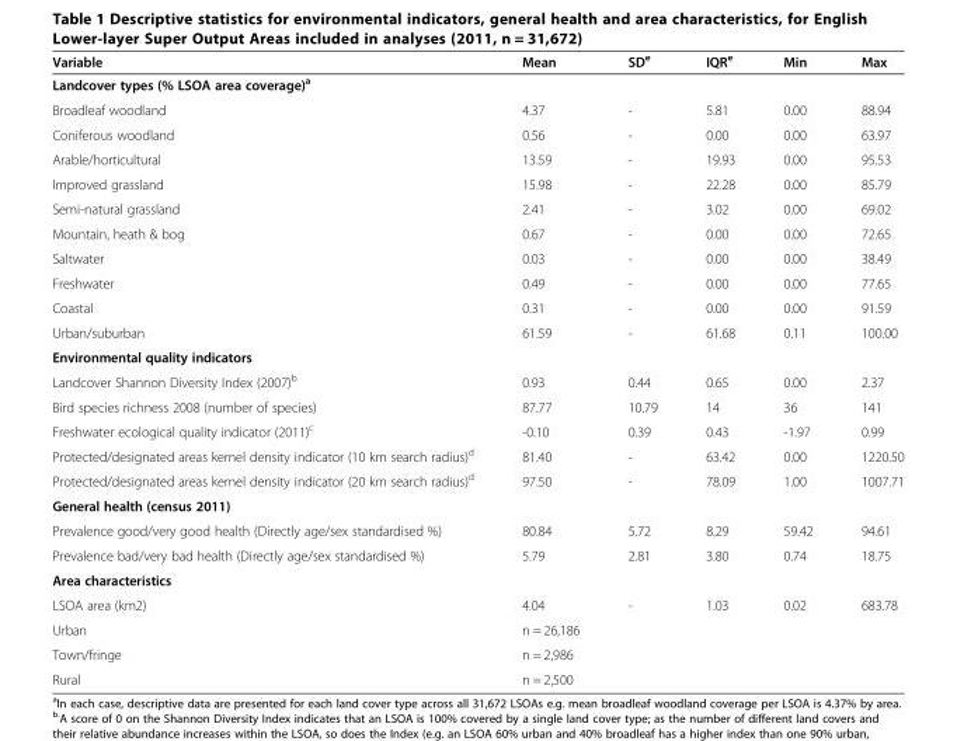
<table><thead><tr><td>Variable</td><td>Mean</td><td>SD<sup>e</sup></td><td>IQR<sup>e</sup></td><td>Min</td><td>Max</td></tr></thead><tbody><tr><td colspan="6">Landcover types (% LSOA area coverage)<sup>a</sup></td></tr><tr><td>Broadleaf woodland</td><td>4.37</td><td>-</td><td>5.81</td><td>0.00</td><td>88.94</td></tr><tr><td>Coniferous woodland</td><td>0.56</td><td>-</td><td>0.00</td><td>0.00</td><td>63.97</td></tr><tr><td>Arable/horticultural</td><td>13.59</td><td>-</td><td>19.93</td><td>0.00</td><td>95.53</td></tr><tr><td>Improved grassland</td><td>15.98</td><td>-</td><td>22.28</td><td>0.00</td><td>85.79</td></tr><tr><td>Semi-natural grassland</td><td>2.41</td><td>-</td><td>3.02</td><td>0.00</td><td>69.02</td></tr><tr><td>Mountain, heath &amp; bog</td><td>0.67</td><td>-</td><td>0.00</td><td>0.00</td><td>72.65</td></tr><tr><td>Saltwater</td><td>0.03</td><td>-</td><td>0.00</td><td>0.00</td><td>38.49</td></tr><tr><td>Freshwater</td><td>0.49</td><td>-</td><td>0.00</td><td>0.00</td><td>77.65</td></tr><tr><td>Coastal</td><td>0.31</td><td>-</td><td>0.00</td><td>0.00</td><td>91.59</td></tr><tr><td>Urban/suburban</td><td>61.59</td><td>-</td><td>61.68</td><td>0.11</td><td>100.00</td></tr><tr><td colspan="6">Environmental quality indicators</td></tr><tr><td>Landcover Shannon Diversity Index (2007)<sup>b</sup></td><td>0.93</td><td>0.44</td><td>0.65</td><td>0.00</td><td>2.37</td></tr><tr><td>Bird species richness 2008 (number of species)</td><td>87.77</td><td>10.79</td><td>14</td><td>36</td><td>141</td></tr><tr><td>Freshwater ecological quality indicator (2011)<sup>c</sup></td><td>-0.10</td><td>0.39</td><td>0.43</td><td>-1.97</td><td>0.99</td></tr><tr><td>Protected/designated areas kernel density indicator (10 km search radius)<sup>d</sup></td><td>81.40</td><td>-</td><td>63.42</td><td>0.00</td><td>1220.50</td></tr><tr><td>Protected/designated areas kernel density indicator (20 km search radius)<sup>d</sup></td><td>97.50</td><td>-</td><td>78.09</td><td>1.00</td><td>1007.71</td></tr><tr><td colspan="6">General health (census 2011)</td></tr><tr><td>Prevalence good/very good health (Directly age/sex standardised %)</td><td>80.84</td><td>5.72</td><td>8.29</td><td>59.42</td><td>94.61</td></tr><tr><td>Prevalence bad/very bad health (Directly age/sex standardised %)</td><td>5.79</td><td>2.81</td><td>3.80</td><td>0.74</td><td>18.75</td></tr><tr><td colspan="6">Area characteristics</td></tr><tr><td>LSOA area (km2)</td><td>4.04</td><td>-</td><td>1.03</td><td>0.02</td><td>683.78</td></tr><tr><td>Urban</td><td>n = 26,186</td><td></td><td></td><td></td><td></td></tr><tr><td>Town/fringe</td><td>n = 2,986</td><td></td><td></td><td></td><td></td></tr><tr><td>Rural</td><td>n = 2,500</td><td></td><td></td><td></td><td></td></tr></tbody></table>